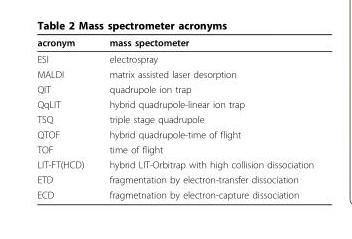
<table><thead><tr><td>acronym</td><td>mass spectometer</td></tr></thead><tbody><tr><td>ESI</td><td>electrospray</td></tr><tr><td>MALDI</td><td>matrix assisted laser desorption</td></tr><tr><td>QIT</td><td>quadrupole ion trap</td></tr><tr><td>QqLIT</td><td>hybrid quadrupole-linear ion trap</td></tr><tr><td>TSQ</td><td>triple stage quadrupole</td></tr><tr><td>QTOF</td><td>hybrid quadrupole-time of flight</td></tr><tr><td>TOF</td><td>time of flight</td></tr><tr><td>LIT-FT(HCD)</td><td>hybrid LIT-Orbitrap with high collision dissociation</td></tr><tr><td>ETD</td><td>fragmentation by electron-transfer dissociation</td></tr><tr><td>ECD</td><td>fragmetnation by electron-capture dissociation</td></tr></tbody></table>